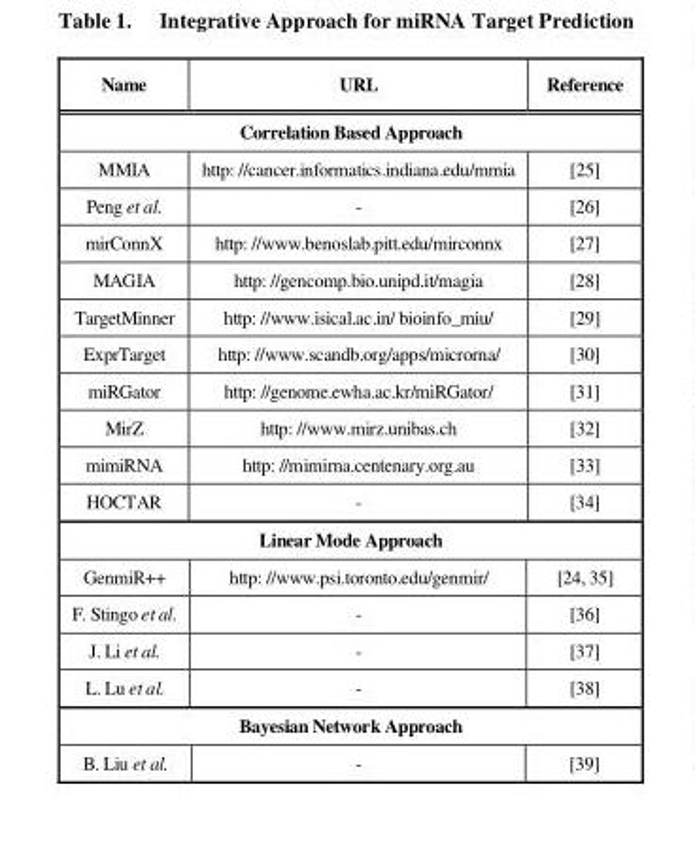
<table><thead><tr><td>Name</td><td>URL</td><td>Reference</td></tr></thead><tbody><tr><td colspan="3">Correlation Based Approach</td></tr><tr><td>MMIA</td><td>http: //cancer.informatics.indiana.edu/mmia</td><td>[25]</td></tr><tr><td>Peng et al.</td><td>-</td><td>[26]</td></tr><tr><td>mirConnX</td><td>http: //www.benoslab.pitt.edu/mirconnx</td><td>[27]</td></tr><tr><td>MAGIA</td><td>http: //gencomp.bio.unipd.it/magia</td><td>[28]</td></tr><tr><td>TargetMinner</td><td>http: //www.isical.ac.in/ bioinfo_miu/</td><td>[29]</td></tr><tr><td>ExprTarget</td><td>http: //www.scandb.org/apps/microrna/</td><td>[30]</td></tr><tr><td>miRGator</td><td>http: //genome.ewha.ac.kr/miRGator/</td><td>[31]</td></tr><tr><td>MirZ</td><td>http: //www.mirz.unibas.ch</td><td>[32]</td></tr><tr><td>mimiRNA</td><td>http: //mimirna.centenary.org.au</td><td>[33]</td></tr><tr><td>HOCTAR</td><td>-</td><td>[34]</td></tr><tr><td colspan="3">Linear Mode Approach</td></tr><tr><td>GenmiR++</td><td>http: //www.psi.toronto.edu/genmir/</td><td>[24, 35]</td></tr><tr><td>F. Stingo et al.</td><td>-</td><td>[36]</td></tr><tr><td>J. Li et al.</td><td>-</td><td>[37]</td></tr><tr><td>L. Lu et al.</td><td>-</td><td>[38]</td></tr><tr><td colspan="3">Bayesian Network Approach</td></tr><tr><td>B. Liu et al.</td><td>-</td><td>[39]</td></tr></tbody></table>